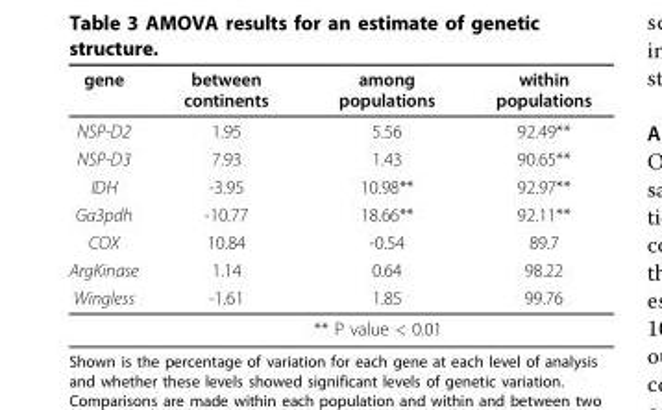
<table><thead><tr><td>gene</td><td>between continents</td><td>among populations</td><td>within populations</td></tr></thead><tbody><tr><td>NSP-D2</td><td>1.95</td><td>5.56</td><td>92.49**</td></tr><tr><td>NSP-D3</td><td>7.93</td><td>1.43</td><td>90.65**</td></tr><tr><td>IDH</td><td>-3.95</td><td>10.98**</td><td>92.97**</td></tr><tr><td>Ga3pdh</td><td>-10.77</td><td>18.66**</td><td>92.11**</td></tr><tr><td>COX</td><td>10.84</td><td>-0.54</td><td>89.7</td></tr><tr><td>ArgKinase</td><td>1.14</td><td>0.64</td><td>98.22</td></tr><tr><td rowspan="2">Wingless</td><td>-1.61</td><td>1.85</td><td>99.76</td></tr><tr><td></td><td>** P value &lt; 0.01</td><td></td></tr></tbody></table>